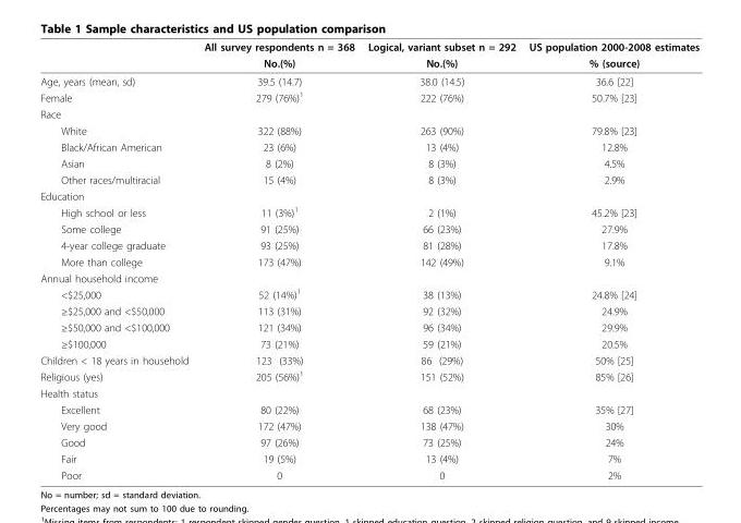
<table><thead><tr><td rowspan="2"></td><td rowspan="2">All survey respondents n = 368 No.(%)</td><td rowspan="2">Logical, variant subset n = 292 No.(%)</td><td rowspan="2">US population 2000-2008 estimates % (source)</td></tr><tr></tr></thead><tbody><tr><td>Age, years (mean, sd)</td><td>39.5 (14.7)</td><td>38.0 (14.5)</td><td>36.6 [22]</td></tr><tr><td>Female</td><td>279 (76%)<sup>1</sup></td><td>222 (76%)</td><td>50.7% [23]</td></tr><tr><td colspan="4">Race</td></tr><tr><td>White</td><td>322 (88%)</td><td>263 (90%)</td><td>79.8% [23]</td></tr><tr><td>Black/African American</td><td>23 (6%)</td><td>13 (4%)</td><td>12.8%</td></tr><tr><td>Asian</td><td>8 (2%)</td><td>8 (3%)</td><td>4.5%</td></tr><tr><td>Other races/multiracial</td><td>15 (4%)</td><td>8 (3%)</td><td>2.9%</td></tr><tr><td colspan="4">Education</td></tr><tr><td>High school or less</td><td>11 (3%)<sup>1</sup></td><td>2 (1%)</td><td>45.2% [23]</td></tr><tr><td>Some college</td><td>91 (25%)</td><td>66 (23%)</td><td>27.9%</td></tr><tr><td>4-year college graduate</td><td>93 (25%)</td><td>81 (28%)</td><td>17.8%</td></tr><tr><td>More than college</td><td>173 (47%)</td><td>142 (49%)</td><td>9.1%</td></tr><tr><td colspan="4">Annual household income</td></tr><tr><td>&lt;$25,000</td><td>52 (14%)<sup>1</sup></td><td>38 (13%)</td><td>24.8% [24]</td></tr><tr><td>≥$25,000 and &lt;$50,000</td><td>113 (31%)</td><td>92 (32%)</td><td>24.9%</td></tr><tr><td>≥$50,000 and &lt;$100,000</td><td>121 (34%)</td><td>96 (34%)</td><td>29.9%</td></tr><tr><td>≥$100,000</td><td>73 (21%)</td><td>59 (21%)</td><td>20.5%</td></tr><tr><td>Children &lt; 18 years in household</td><td>123 (33%)</td><td>86 (29%)</td><td>50% [25]</td></tr><tr><td>Religious (yes)</td><td>205 (56%)<sup>1</sup></td><td>151 (52%)</td><td>85% [26]</td></tr><tr><td colspan="4">Health status</td></tr><tr><td>Excellent</td><td>80 (22%)</td><td>68 (23%)</td><td>35% [27]</td></tr><tr><td>Very good</td><td>172 (47%)</td><td>138 (47%)</td><td>30%</td></tr><tr><td>Good</td><td>97 (26%)</td><td>73 (25%)</td><td>24%</td></tr><tr><td>Fair</td><td>19 (5%)</td><td>13 (4%)</td><td>7%</td></tr><tr><td>Poor</td><td>0</td><td>0</td><td>2%</td></tr></tbody></table>